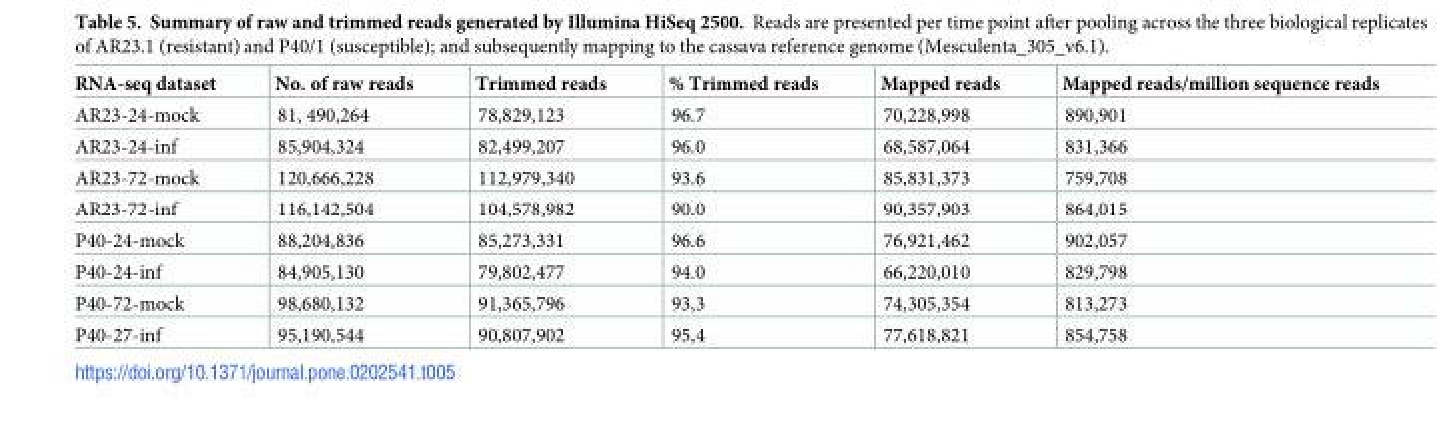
<table><thead><tr><td>RNA-seq dataset</td><td>No. of raw reads</td><td>Trimmed reads</td><td>% Trimmed reads</td><td>Mapped reads</td><td>Mapped reads/million sequence reads</td></tr></thead><tbody><tr><td>AR23-24-mock</td><td>81, 490,264</td><td>78,829,123</td><td>96.7</td><td>70,228,998</td><td>890,901</td></tr><tr><td>AR23-24-inf</td><td>85,904,324</td><td>82,499,207</td><td>96.0</td><td>68,587,064</td><td>831,366</td></tr><tr><td>AR23-72-mock</td><td>120,666,228</td><td>112,979,340</td><td>93.6</td><td>85,831,373</td><td>759,708</td></tr><tr><td>AR23-72-inf</td><td>116,142,504</td><td>104,578,982</td><td>90.0</td><td>90,357,903</td><td>864,015</td></tr><tr><td>P40-24-mock</td><td>88,204,836</td><td>85,273,331</td><td>96.6</td><td>76,921,462</td><td>902,057</td></tr><tr><td>P40-24-inf</td><td>84,905,130</td><td>79,802,477</td><td>94.0</td><td>66,220,010</td><td>829,798</td></tr><tr><td>P40-72-mock</td><td>98,680,132</td><td>91,365,796</td><td>93,3</td><td>74,305,354</td><td>813,273</td></tr><tr><td>P40-27-inf</td><td>95,190,544</td><td>90,807,902</td><td>95,4</td><td>77,618,821</td><td>854,758</td></tr></tbody></table>